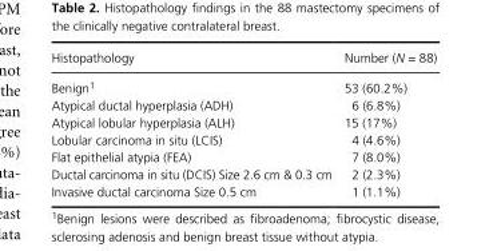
<table><thead><tr><td>Histopathology</td><td>Number (N = 88)</td></tr></thead><tbody><tr><td>Benign1</td><td>53 (60.2%)</td></tr><tr><td>Atypical ductal hyperplasia (ADH)</td><td>6 (6.8%)</td></tr><tr><td>Atypical lobular hyperplasia (ALH)</td><td>15 (17%)</td></tr><tr><td>Lobular carcinoma in situ (LCIS)</td><td>4 (4.6%)</td></tr><tr><td>Flat epithelial atypia (FEA)</td><td>7 (8.0%)</td></tr><tr><td>Ductal carcinoma in situ (DCIS) Size 2.6 cm &amp; 0.3 cm</td><td>2 (2.3%)</td></tr><tr><td>Invasive ductal carcinoma Size 0.5 cm</td><td>1 (1.1%)</td></tr></tbody></table>